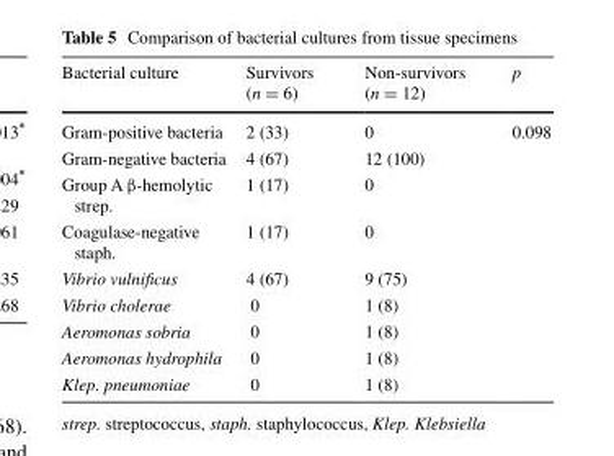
<table><thead><tr><td>Bacterial culture</td><td>Survivors (n = 6)</td><td>Non-survivors (n = 12)</td><td>p</td></tr></thead><tbody><tr><td>Gram-positive bacteria</td><td>2 (33)</td><td>0</td><td>0.098</td></tr><tr><td>Gram-negative bacteria</td><td>4 (67)</td><td>12 (100)</td><td></td></tr><tr><td>Group A β-hemolytic strep.</td><td>1 (17)</td><td>0</td><td></td></tr><tr><td>Coagulase-negative staph.</td><td>1 (17)</td><td>0</td><td></td></tr><tr><td>Vibrio vulnificus</td><td>4 (67)</td><td>9 (75)</td><td></td></tr><tr><td>Vibrio cholerae</td><td>0</td><td>1 (8)</td><td></td></tr><tr><td>Aeromonas sobria</td><td>0</td><td>1 (8)</td><td></td></tr><tr><td>Aeromonas hydrophila</td><td>0</td><td>1 (8)</td><td></td></tr><tr><td>Klep. pneumoniae</td><td>0</td><td>1 (8)</td><td></td></tr></tbody></table>